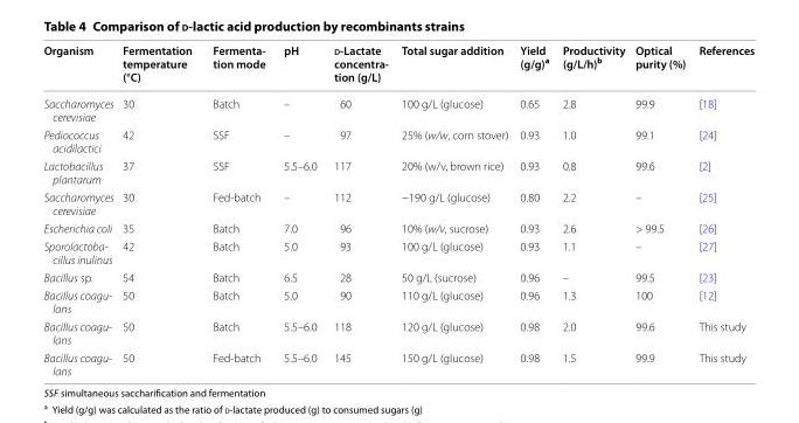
<table><thead><tr><td>Organism</td><td>Fermentation temperature (°C)</td><td>Fermenta‑ tion mode</td><td>pH</td><td>d‑Lactate concentra‑ tion (g/L)</td><td>Total sugar addition</td><td>Yield (g/g)<sup>a</sup></td><td>Productivity (g/L/h)<sup>b</sup></td><td>Optical purity (%)</td><td>References</td></tr></thead><tbody><tr><td>Saccharomyces cerevisiae</td><td>30</td><td>Batch</td><td>–</td><td>60</td><td>100 g/L (glucose)</td><td>0.65</td><td>2.8</td><td>99.9</td><td>[18]</td></tr><tr><td>Pediococcus acidilactici</td><td>42</td><td>SSF</td><td>–</td><td>97</td><td>25% (w/w, corn stover)</td><td>0.93</td><td>1.0</td><td>99.1</td><td>[24]</td></tr><tr><td>Lactobacillus plantarum</td><td>37</td><td>SSF</td><td>5.5–6.0</td><td>117</td><td>20% (w/v, brown rice)</td><td>0.93</td><td>0.8</td><td>99.6</td><td>[2]</td></tr><tr><td>Saccharomyces cerevisiae</td><td>30</td><td>Fed-batch</td><td>–</td><td>112</td><td>~190 g/L (glucose)</td><td>0.80</td><td>2.2</td><td>–</td><td>[25]</td></tr><tr><td>Escherichia coli</td><td>35</td><td>Batch</td><td>7.0</td><td>96</td><td>10% (w/v, sucrose)</td><td>0.93</td><td>2.6</td><td>&gt; 99.5</td><td>[26]</td></tr><tr><td>Sporolactoba- cillus inulinus</td><td>42</td><td>Batch</td><td>5.0</td><td>93</td><td>100 g/L (glucose)</td><td>0.93</td><td>1.1</td><td>–</td><td>[27]</td></tr><tr><td>Bacillus sp.</td><td>54</td><td>Batch</td><td>6.5</td><td>28</td><td>50 g/L (sucrose)</td><td>0.96</td><td>–</td><td>99.5</td><td>[23]</td></tr><tr><td>Bacillus coagu- lans</td><td>50</td><td>Batch</td><td>5.0</td><td>90</td><td>110 g/L (glucose)</td><td>0.96</td><td>1.3</td><td>100</td><td>[12]</td></tr><tr><td>Bacillus coagu- lans</td><td>50</td><td>Batch</td><td>5.5–6.0</td><td>118</td><td>120 g/L (glucose)</td><td>0.98</td><td>2.0</td><td>99.6</td><td>This study</td></tr><tr><td>Bacillus coagu- lans</td><td>50</td><td>Fed-batch</td><td>5.5–6.0</td><td>145</td><td>150 g/L (glucose)</td><td>0.98</td><td>1.5</td><td>99.9</td><td>This study</td></tr></tbody></table>